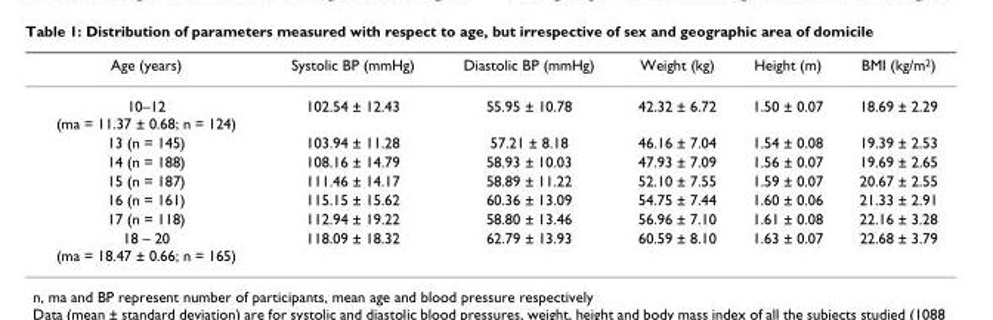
<table><thead><tr><td>Age (years)</td><td>Systolic BP (mmHg)</td><td>Diastolic BP (mmHg)</td><td>Weight (kg)</td><td>Height (m)</td><td>BMI (kg/m<sup>2</sup>)</td></tr></thead><tbody><tr><td>10–12 (ma = 11.37 ± 0.68; n = 124)</td><td>102.54 ± 12.43</td><td>55.95 ± 10.78</td><td>42.32 ± 6.72</td><td>1.50 ± 0.07</td><td>18.69 ± 2.29</td></tr><tr><td>13 (n = 145)</td><td>103.94 ± 11.28</td><td>57.21 ± 8.18</td><td>46.16 ± 7.04</td><td>1.54 ± 0.08</td><td>19.39 ± 2.53</td></tr><tr><td>14 (n = 188)</td><td>108.16 ± 14.79</td><td>58.93 ± 10.03</td><td>47.93 ± 7.09</td><td>1.56 ± 0.07</td><td>19.69 ± 2.65</td></tr><tr><td>15 (n = 187)</td><td>111.46 ± 14.17</td><td>58.89 ± 11.22</td><td>52.10 ± 7.55</td><td>1.59 ± 0.07</td><td>20.67 ± 2.55</td></tr><tr><td>16 (n = 161)</td><td>115.15 ± 15.62</td><td>60.36 ± 13.09</td><td>54.75 ± 7.44</td><td>1.60 ± 0.06</td><td>21.33 ± 2.91</td></tr><tr><td>17 (n = 118)</td><td>112.94 ± 19.22</td><td>58.80 ± 13.46</td><td>56.96 ± 7.10</td><td>1.61 ± 0.08</td><td>22.16 ± 3.28</td></tr><tr><td>18 – 20 (ma = 18.47 ± 0.66; n = 165)</td><td>118.09 ± 18.32</td><td>62.79 ± 13.93</td><td>60.59 ± 8.10</td><td>1.63 ± 0.07</td><td>22.68 ± 3.79</td></tr></tbody></table>